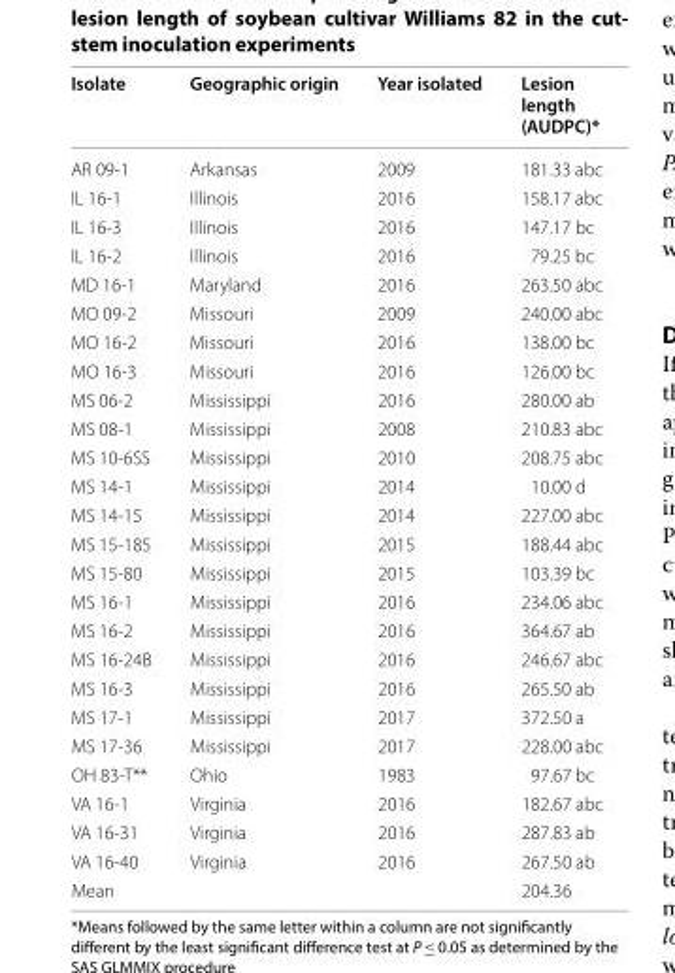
<table><thead><tr><td>Isolate</td><td>Geographic origin</td><td>Year isolated</td><td>Lesion length (AUDPC)*</td></tr></thead><tbody><tr><td>AR 09-1</td><td>Arkansas</td><td>2009</td><td>181.33 abc</td></tr><tr><td>IL 16-1</td><td>Illinois</td><td>2016</td><td>158.17 abc</td></tr><tr><td>IL 16-3</td><td>Illinois</td><td>2016</td><td>147.17 bc</td></tr><tr><td>IL 16-2</td><td>Illinois</td><td>2016</td><td>79.25 bc</td></tr><tr><td>MD 16-1</td><td>Maryland</td><td>2016</td><td>263.50 abc</td></tr><tr><td>MO 09-2</td><td>Missouri</td><td>2009</td><td>240.00 abc</td></tr><tr><td>MO 16-2</td><td>Missouri</td><td>2016</td><td>138.00 bc</td></tr><tr><td>MO 16-3</td><td>Missouri</td><td>2016</td><td>126.00 bc</td></tr><tr><td>MS 06-2</td><td>Mississippi</td><td>2016</td><td>280.00 ab</td></tr><tr><td>MS 08-1</td><td>Mississippi</td><td>2008</td><td>210.83 abc</td></tr><tr><td>MS 10-6SS</td><td>Mississippi</td><td>2010</td><td>208.75 abc</td></tr><tr><td>MS 14-1</td><td>Mississippi</td><td>2014</td><td>10.00 d</td></tr><tr><td>MS 14-15</td><td>Mississippi</td><td>2014</td><td>227.00 abc</td></tr><tr><td>MS 15-185</td><td>Mississippi</td><td>2015</td><td>188.44 abc</td></tr><tr><td>MS 15-80</td><td>Mississippi</td><td>2015</td><td>103.39 bc</td></tr><tr><td>MS 16-1</td><td>Mississippi</td><td>2016</td><td>234.06 abc</td></tr><tr><td>MS 16-2</td><td>Mississippi</td><td>2016</td><td>364.67 ab</td></tr><tr><td>MS 16-24B</td><td>Mississippi</td><td>2016</td><td>246.67 abc</td></tr><tr><td>MS 16-3</td><td>Mississippi</td><td>2016</td><td>265.50 ab</td></tr><tr><td>MS 17-1</td><td>Mississippi</td><td>2017</td><td>372.50 a</td></tr><tr><td>MS 17-36</td><td>Mississippi</td><td>2017</td><td>228.00 abc</td></tr><tr><td>OH 83-T**</td><td>Ohio</td><td>1983</td><td>97.67 bc</td></tr><tr><td>VA 16-1</td><td>Virginia</td><td>2016</td><td>182.67 abc</td></tr><tr><td>VA 16-31</td><td>Virginia</td><td>2016</td><td>287.83 ab</td></tr><tr><td>VA 16-40</td><td>Virginia</td><td>2016</td><td>267.50 ab</td></tr><tr><td>Mean</td><td></td><td></td><td>204.36</td></tr></tbody></table>